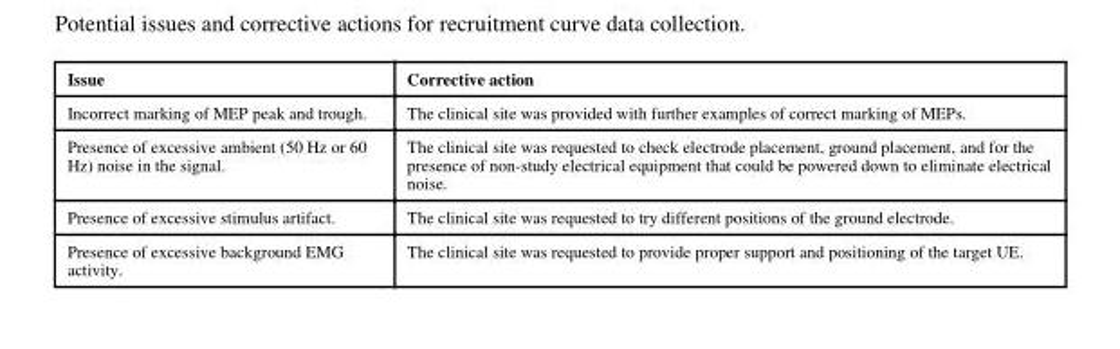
<table><thead><tr><td>Issue</td><td>Corrective action</td></tr></thead><tbody><tr><td>Incorrect marking of MEP peak and trough.</td><td>The clinical site was provided with further examples of correct marking of MEPs.</td></tr><tr><td>Presence of excessive ambient (50 Hz or 60 Hz) noise in the signal.</td><td>The clinical site was requested to check electrode placement, ground placement, and for the presence of non-study electrical equipment that could be powered down to eliminate electrical noise.</td></tr><tr><td>Presence of excessive stimulus artifact.</td><td>The clinical site was requested to try different positions of the ground electrode.</td></tr><tr><td>Presence of excessive background EMG activity.</td><td>The clinical site was requested to provide proper support and positioning of the target UE.</td></tr></tbody></table>